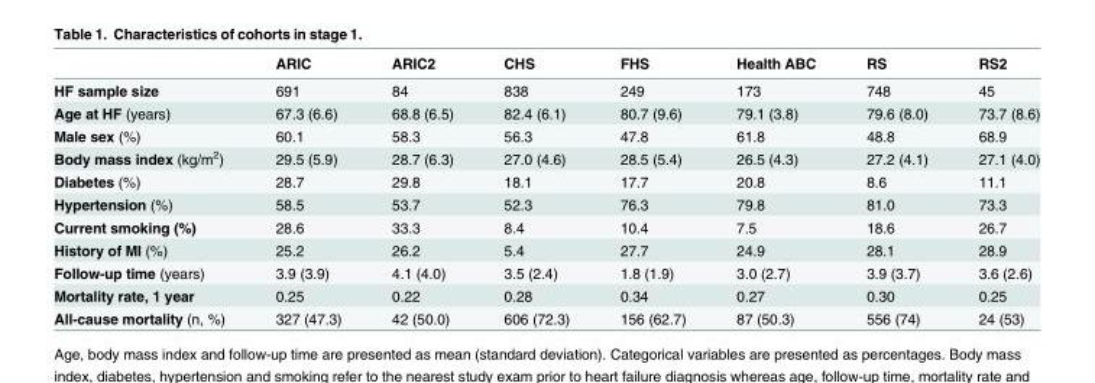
<table><thead><tr><td></td><td>ARIC</td><td>ARIC2</td><td>CHS</td><td>FHS</td><td>Health ABC</td><td>RS</td><td>RS2</td></tr></thead><tbody><tr><td>HF sample size</td><td>691</td><td>84</td><td>838</td><td>249</td><td>173</td><td>748</td><td>45</td></tr><tr><td>Age at HF (years)</td><td>67.3 (6.6)</td><td>68.8 (6.5)</td><td>82.4 (6.1)</td><td>80.7 (9.6)</td><td>79.1 (3.8)</td><td>79.6 (8.0)</td><td>73.7 (8.6)</td></tr><tr><td>Male sex (%)</td><td>60.1</td><td>58.3</td><td>56.3</td><td>47.8</td><td>61.8</td><td>48.8</td><td>68.9</td></tr><tr><td>Body mass index (kg/m<sup>2</sup>)</td><td>29.5 (5.9)</td><td>28.7 (6.3)</td><td>27.0 (4.6)</td><td>28.5 (5.4)</td><td>26.5 (4.3)</td><td>27.2 (4.1)</td><td>27.1 (4.0)</td></tr><tr><td>Diabetes (%)</td><td>28.7</td><td>29.8</td><td>18.1</td><td>17.7</td><td>20.8</td><td>8.6</td><td>11.1</td></tr><tr><td>Hypertension (%)</td><td>58.5</td><td>53.7</td><td>52.3</td><td>76.3</td><td>79.8</td><td>81.0</td><td>73.3</td></tr><tr><td>Current smoking (%)</td><td>28.6</td><td>33.3</td><td>8.4</td><td>10.4</td><td>7.5</td><td>18.6</td><td>26.7</td></tr><tr><td>History of MI (%)</td><td>25.2</td><td>26.2</td><td>5.4</td><td>27.7</td><td>24.9</td><td>28.1</td><td>28.9</td></tr><tr><td>Follow-up time (years)</td><td>3.9 (3.9)</td><td>4.1 (4.0)</td><td>3.5 (2.4)</td><td>1.8 (1.9)</td><td>3.0 (2.7)</td><td>3.9 (3.7)</td><td>3.6 (2.6)</td></tr><tr><td>Mortality rate, 1 year</td><td>0.25</td><td>0.22</td><td>0.28</td><td>0.34</td><td>0.27</td><td>0.30</td><td>0.25</td></tr><tr><td>All-cause mortality (n, %)</td><td>327 (47.3)</td><td>42 (50.0)</td><td>606 (72.3)</td><td>156 (62.7)</td><td>87 (50.3)</td><td>556 (74)</td><td>24 (53)</td></tr></tbody></table>